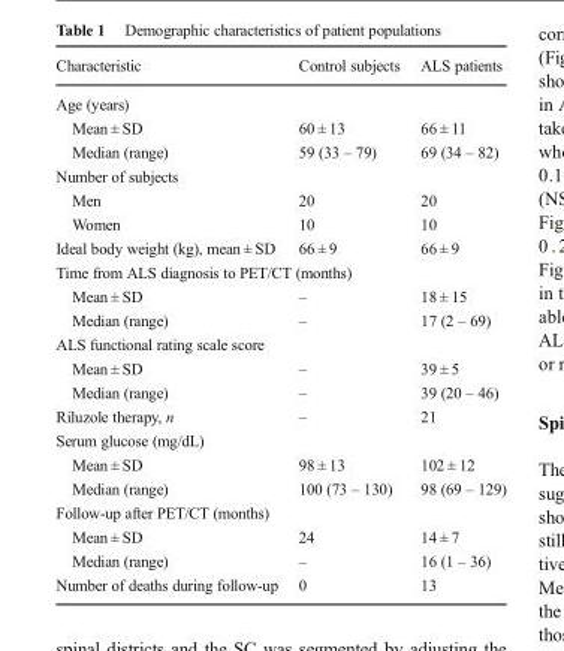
<table><thead><tr><td>Characteristic</td><td>Control subjects</td><td>ALS patients</td></tr></thead><tbody><tr><td colspan="3">Age (years)</td></tr><tr><td>Mean ± SD</td><td>60 ± 13</td><td>66 ± 11</td></tr><tr><td>Median (range)</td><td>59 (33 – 79)</td><td>69 (34 – 82)</td></tr><tr><td colspan="3">Number of subjects</td></tr><tr><td>Men</td><td>20</td><td>20</td></tr><tr><td>Women</td><td>10</td><td>10</td></tr><tr><td>Ideal body weight (kg), mean ± SD</td><td>66 ± 9</td><td>66 ± 9</td></tr><tr><td colspan="3">Time from ALS diagnosis to PET/CT (months)</td></tr><tr><td>Mean ± SD</td><td>–</td><td>18 ± 15</td></tr><tr><td>Median (range)</td><td>–</td><td>17 (2 – 69)</td></tr><tr><td colspan="3">ALS functional rating scale score</td></tr><tr><td>Mean ± SD</td><td>–</td><td>39 ± 5</td></tr><tr><td>Median (range)</td><td>–</td><td>39 (20 – 46)</td></tr><tr><td>Riluzole therapy, n</td><td>–</td><td>21</td></tr><tr><td colspan="3">Serum glucose (mg/dL)</td></tr><tr><td>Mean ± SD</td><td>98 ± 13</td><td>102 ± 12</td></tr><tr><td>Median (range)</td><td>100 (73 – 130)</td><td>98 (69 – 129)</td></tr><tr><td colspan="3">Follow-up after PET/CT (months)</td></tr><tr><td>Mean ± SD</td><td>24</td><td>14 ± 7</td></tr><tr><td>Median (range)</td><td>–</td><td>16 (1 – 36)</td></tr><tr><td>Number of deaths during follow-up</td><td>0</td><td>13</td></tr></tbody></table>